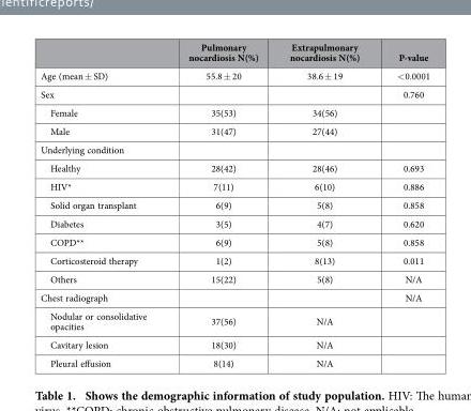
<table><thead><tr><td></td><td>Pulmonary nocardiosis N(%)</td><td>Extrapulmonary nocardiosis N(%)</td><td>P-value</td></tr></thead><tbody><tr><td>Age (mean ± SD)</td><td>55.8 ± 20</td><td>38.6 ± 19</td><td>&lt; 0.0001</td></tr><tr><td>Sex</td><td></td><td></td><td>0.760</td></tr><tr><td>Female</td><td>35(53)</td><td>34(56)</td><td></td></tr><tr><td>Male</td><td>31(47)</td><td>27(44)</td><td></td></tr><tr><td colspan="4">Underlying condition</td></tr><tr><td>Healthy</td><td>28(42)</td><td>28(46)</td><td>0.693</td></tr><tr><td>HIV*</td><td>7(11)</td><td>6(10)</td><td>0.886</td></tr><tr><td>Solid organ transplant</td><td>6(9)</td><td>5(8)</td><td>0.858</td></tr><tr><td>Diabetes</td><td>3(5)</td><td>4(7)</td><td>0.620</td></tr><tr><td>COPD**</td><td>6(9)</td><td>5(8)</td><td>0.858</td></tr><tr><td>Corticosteroid therapy</td><td>1(2)</td><td>8(13)</td><td>0.011</td></tr><tr><td>Others</td><td>15(22)</td><td>5(8)</td><td>N/A</td></tr><tr><td>Chest radiograph</td><td></td><td></td><td>N/A</td></tr><tr><td>Nodular or consolidative opacities</td><td>37(56)</td><td>N/A</td><td></td></tr><tr><td>Cavitary lesion</td><td>18(30)</td><td>N/A</td><td></td></tr><tr><td>Pleural effusion</td><td>8(14)</td><td>N/A</td><td></td></tr></tbody></table>